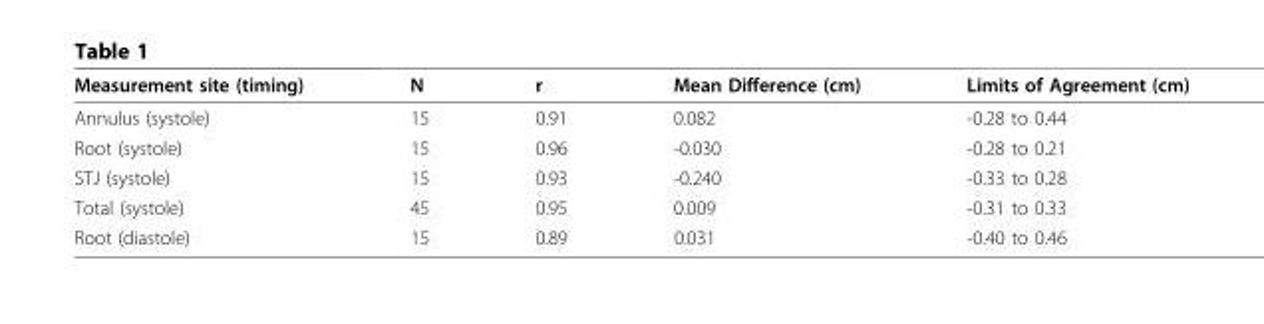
<table><thead><tr><td>Measurement site (timing)</td><td>N</td><td>r</td><td>Mean Difference (cm)</td><td>Limits of Agreement (cm)</td></tr></thead><tbody><tr><td>Annulus (systole)</td><td>15</td><td>0.91</td><td>0.082</td><td>-0.28 to 0.44</td></tr><tr><td>Root (systole)</td><td>15</td><td>0.96</td><td>-0.030</td><td>-0.28 to 0.21</td></tr><tr><td>STJ (systole)</td><td>15</td><td>0.93</td><td>-0.240</td><td>-0.33 to 0.28</td></tr><tr><td>Total (systole)</td><td>45</td><td>0.95</td><td>0.009</td><td>-0.31 to 0.33</td></tr><tr><td>Root (diastole)</td><td>15</td><td>0.89</td><td>0.031</td><td>-0.40 to 0.46</td></tr></tbody></table>